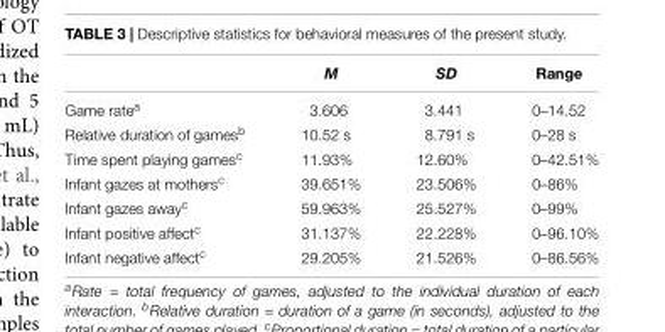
<table><thead><tr><td></td><td>M</td><td>SD</td><td>Range</td></tr></thead><tbody><tr><td>Game rate<sup>a</sup></td><td>3.606</td><td>3.441</td><td>0–14.52</td></tr><tr><td>Relative duration of games<sup>b</sup></td><td>10.52 s</td><td>8.791 s</td><td>0–28 s</td></tr><tr><td>Time spent playing games<sup>c</sup></td><td>11.93%</td><td>12.60%</td><td>0–42.51%</td></tr><tr><td>Infant gazes at mothers<sup>c</sup></td><td>39.651%</td><td>23.506%</td><td>0–86%</td></tr><tr><td>Infant gazes away<sup>c</sup></td><td>59.963%</td><td>25.527%</td><td>0–99%</td></tr><tr><td>Infant positive affect<sup>c</sup></td><td>31.137%</td><td>22.228%</td><td>0–96.10%</td></tr><tr><td>Infant negative affect<sup>c</sup></td><td>29.205%</td><td>21.526%</td><td>0–86.56%</td></tr></tbody></table>